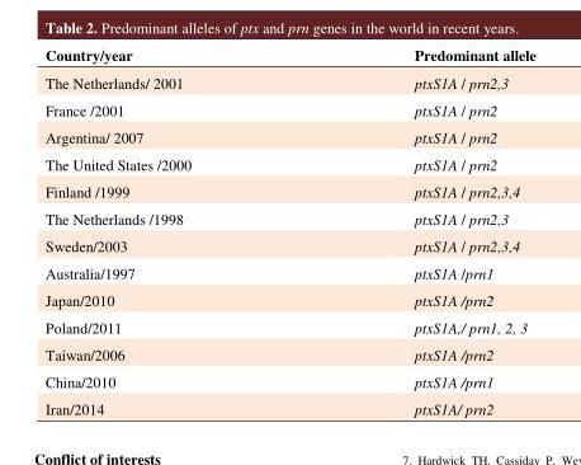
<table><thead><tr><td>Country/year</td><td>Predominant allele</td></tr></thead><tbody><tr><td>The Netherlands/ 2001</td><td>ptxS1A / prn2,3</td></tr><tr><td>France /2001</td><td>ptxS1A / prn2</td></tr><tr><td>Argentina/ 2007</td><td>ptxS1A / prn2</td></tr><tr><td>The United States /2000</td><td>ptxS1A / prn2</td></tr><tr><td>Finland /1999</td><td>ptxS1A / prn2,3,4</td></tr><tr><td>The Netherlands /1998</td><td>ptxS1A / prn2,3</td></tr><tr><td>Sweden/2003</td><td>ptxS1A / prn2,3,4</td></tr><tr><td>Australia/1997</td><td>ptxS1A /prn1</td></tr><tr><td>Japan/2010</td><td>ptxS1A /prn2</td></tr><tr><td>Poland/2011</td><td>ptxS1A,/ prn1, 2, 3</td></tr><tr><td>Taiwan/2006</td><td>ptxS1A /prn2</td></tr><tr><td>China/2010</td><td>ptxS1A /prn1</td></tr><tr><td>Iran/2014</td><td>ptxS1A/ prn2</td></tr></tbody></table>